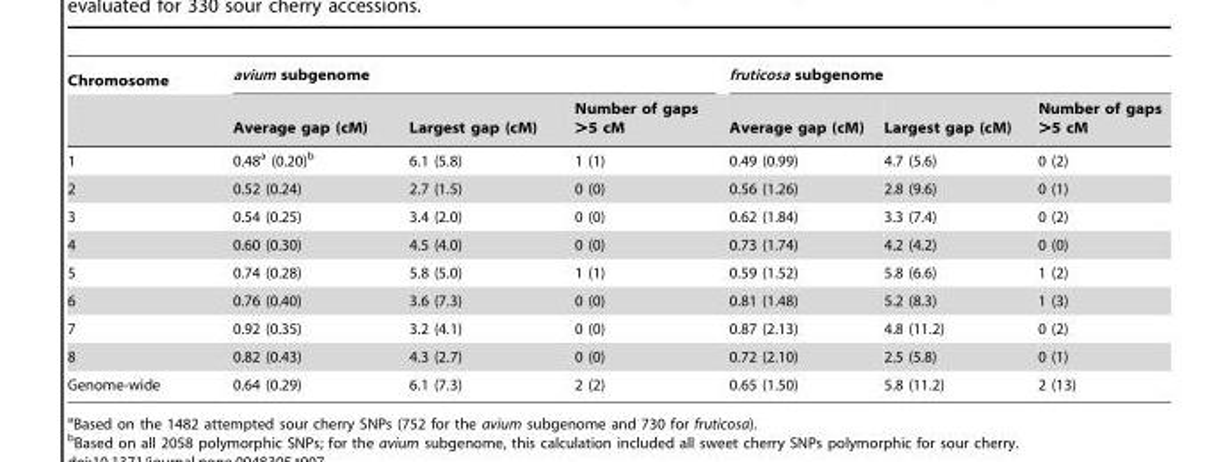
<table><thead><tr><td rowspan="2">Chromosome</td><td colspan="3">avium subgenome</td><td colspan="3">fruticosa subgenome</td></tr><tr><td>Average gap (cM)</td><td>Largest gap (cM)</td><td>Number of gaps &gt;5 cM</td><td>Average gap (cM)</td><td>Largest gap (cM)</td><td>Number of gaps &gt;5 cM</td></tr></thead><tbody><tr><td>1</td><td>0.48<sup>a</sup> (0.20)<sup>b</sup></td><td>6.1 (5.8)</td><td>1 (1)</td><td>0.49 (0.99)</td><td>4.7 (5.6)</td><td>0 (2)</td></tr><tr><td>2</td><td>0.52 (0.24)</td><td>2.7 (1.5)</td><td>0 (0)</td><td>0.56 (1.26)</td><td>2.8 (9.6)</td><td>0 (1)</td></tr><tr><td>3</td><td>0.54 (0.25)</td><td>3.4 (2.0)</td><td>0 (0)</td><td>0.62 (1.84)</td><td>3.3 (7.4)</td><td>0 (2)</td></tr><tr><td>4</td><td>0.60 (0.30)</td><td>4.5 (4.0)</td><td>0 (0)</td><td>0.73 (1.74)</td><td>4.2 (4.2)</td><td>0 (0)</td></tr><tr><td>5</td><td>0.74 (0.28)</td><td>5.8 (5.0)</td><td>1 (1)</td><td>0.59 (1.52)</td><td>5.8 (6.6)</td><td>1 (2)</td></tr><tr><td>6</td><td>0.76 (0.40)</td><td>3.6 (7.3)</td><td>0 (0)</td><td>0.81 (1.48)</td><td>5.2 (8.3)</td><td>1 (3)</td></tr><tr><td>7</td><td>0.92 (0.35)</td><td>3.2 (4.1)</td><td>0 (0)</td><td>0.87 (2.13)</td><td>4.8 (11.2)</td><td>0 (2)</td></tr><tr><td>8</td><td>0.82 (0.43)</td><td>4.3 (2.7)</td><td>0 (0)</td><td>0.72 (2.10)</td><td>2.5 (5.8)</td><td>0 (1)</td></tr><tr><td>Genome-wide</td><td>0.64 (0.29)</td><td>6.1 (7.3)</td><td>2 (2)</td><td>0.65 (1.50)</td><td>5.8 (11.2)</td><td>2 (13)</td></tr></tbody></table>